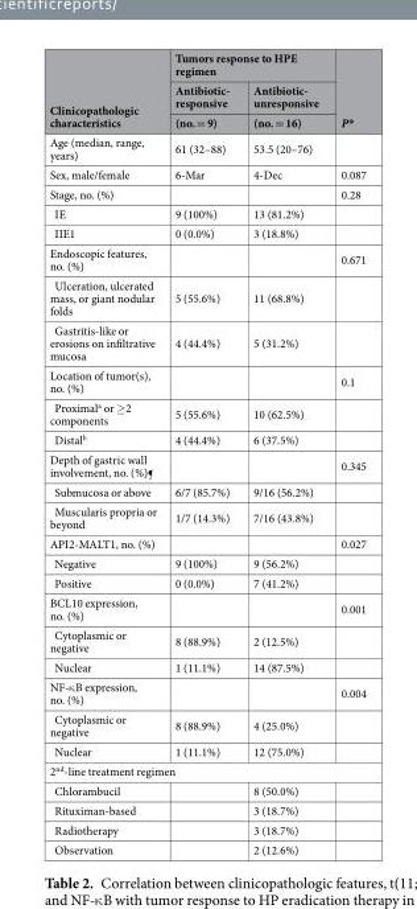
<table><thead><tr><td rowspan="3">Clinicopathologic characteristics</td><td colspan="2">Tumors response to HPE regimen</td><td rowspan="3">P*</td></tr><tr><td rowspan="2">Antibiotic- responsive (no. = 9)</td><td rowspan="2">Antibiotic- unresponsive (no. = 16)</td></tr><tr></tr></thead><tbody><tr><td>Age (median, range, years)</td><td>61 (32–88)</td><td>53.5 (20–76)</td><td></td></tr><tr><td>Sex, male/female</td><td>6-Mar</td><td>4-Dec</td><td>0.087</td></tr><tr><td>Stage, no. (%)</td><td></td><td></td><td>0.28</td></tr><tr><td>IE</td><td>9 (100%)</td><td>13 (81.2%)</td><td></td></tr><tr><td>IIE1</td><td>0 (0.0%)</td><td>3 (18.8%)</td><td></td></tr><tr><td>Endoscopic features, no. (%)</td><td></td><td></td><td>0.671</td></tr><tr><td>Ulceration, ulcerated mass, or giant nodular folds</td><td>5 (55.6%)</td><td>11 (68.8%)</td><td></td></tr><tr><td>Gastritis-like or erosions on infiltrative mucosa</td><td>4 (44.4%)</td><td>5 (31.2%)</td><td></td></tr><tr><td>Location of tumor(s), no. (%)</td><td></td><td></td><td>0.1</td></tr><tr><td>Proximal<sup>a</sup> or ≥2 components</td><td>5 (55.6%)</td><td>10 (62.5%)</td><td></td></tr><tr><td>Distal<sup>b</sup></td><td>4 (44.4%)</td><td>6 (37.5%)</td><td></td></tr><tr><td>Depth of gastric wall involvement, no. (%)¶</td><td></td><td></td><td>0.345</td></tr><tr><td>Submucosa or above</td><td>6/7 (85.7%)</td><td>9/16 (56.2%)</td><td></td></tr><tr><td>Muscularis propria or beyond</td><td>1/7 (14.3%)</td><td>7/16 (43.8%)</td><td></td></tr><tr><td>API2-MALT1, no. (%)</td><td></td><td></td><td>0.027</td></tr><tr><td>Negative</td><td>9 (100%)</td><td>9 (56.2%)</td><td></td></tr><tr><td>Positive</td><td>0 (0.0%)</td><td>7 (41.2%)</td><td></td></tr><tr><td>BCL10 expression, no. (%)</td><td></td><td></td><td>0.001</td></tr><tr><td>Cytoplasmic or negative</td><td>8 (88.9%)</td><td>2 (12.5%)</td><td></td></tr><tr><td>Nuclear</td><td>1 (11.1%)</td><td>14 (87.5%)</td><td></td></tr><tr><td>NF-κB expression, no. (%)</td><td></td><td></td><td>0.004</td></tr><tr><td>Cytoplasmic or negative</td><td>8 (88.9%)</td><td>4 (25.0%)</td><td></td></tr><tr><td>Nuclear</td><td>1 (11.1%)</td><td>12 (75.0%)</td><td></td></tr><tr><td colspan="4">2<sup>nd</sup>-line treatment regimen</td></tr><tr><td>Chlorambucil</td><td></td><td>8 (50.0%)</td><td></td></tr><tr><td>Rituximan-based</td><td></td><td>3 (18.7%)</td><td></td></tr><tr><td>Radiotherapy</td><td></td><td>3 (18.7%)</td><td></td></tr><tr><td>Observation</td><td></td><td>2 (12.6%)</td><td></td></tr></tbody></table>